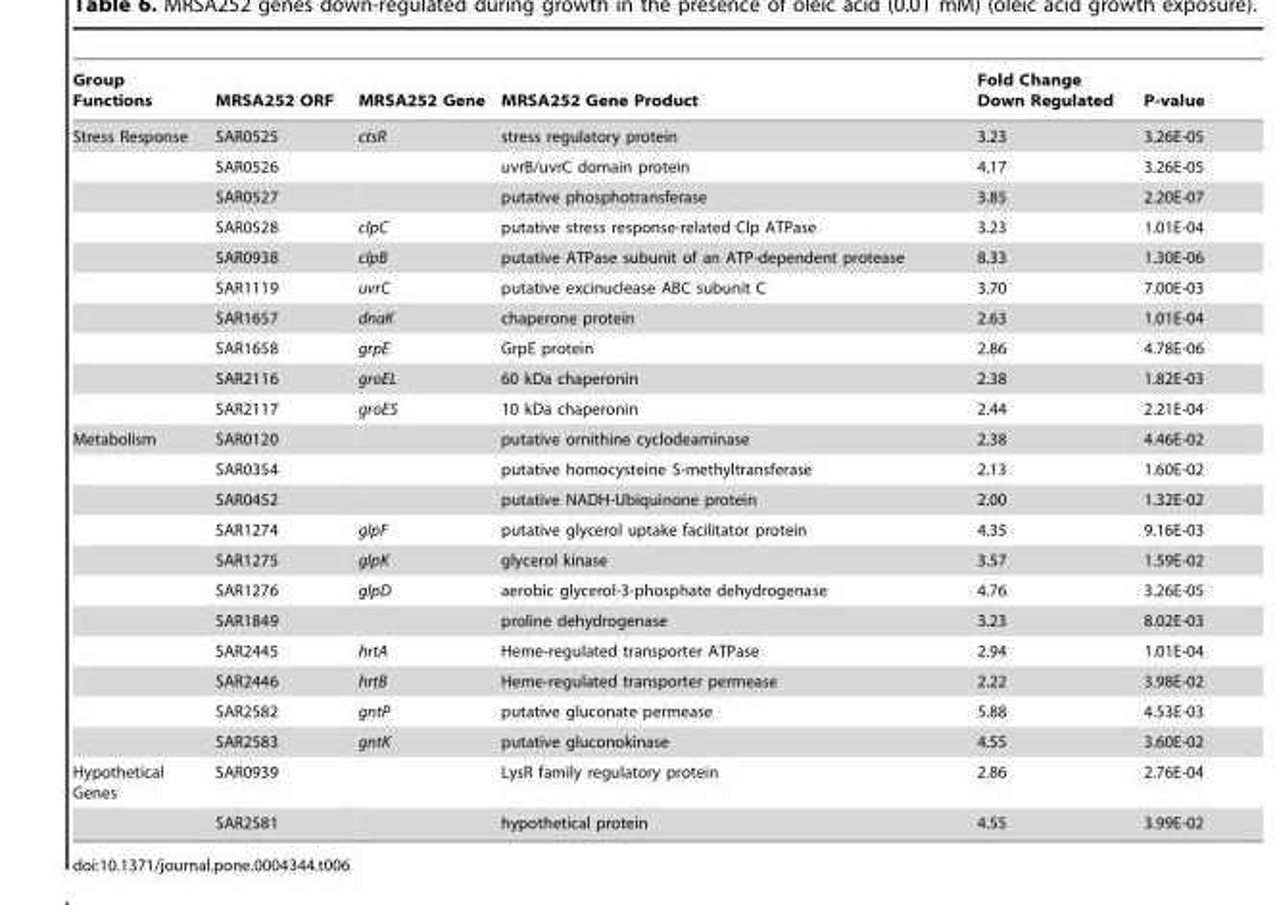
<table><thead><tr><td>Group Functions</td><td>MRSA252 ORF</td><td>MRSA252 Gene</td><td>MRSA252 Gene Product</td><td>Fold Change Down Regulated</td><td>P-value</td></tr></thead><tbody><tr><td rowspan="10">Stress Response</td><td>SAR0525</td><td>ctsR</td><td>stress regulatory protein</td><td>3.23</td><td>3.26E-05</td></tr><tr><td>SAR0526</td><td></td><td>uvrB/uvrC domain protein</td><td>4.17</td><td>3.26E-05</td></tr><tr><td>SAR0527</td><td></td><td>putative phosphotransferase</td><td>3.85</td><td>2.20E-07</td></tr><tr><td>SAR0528</td><td>clpC</td><td>putative stress response-related Clp ATPase</td><td>3.23</td><td>1.01E-04</td></tr><tr><td>SAR0938</td><td>clpB</td><td>putative ATPase subunit of an ATP-dependent protease</td><td>8.33</td><td>1.30E-06</td></tr><tr><td>SAR1119</td><td>uvrC</td><td>putative excinuclease ABC subunit C</td><td>3.70</td><td>7.00E-03</td></tr><tr><td>SAR1657</td><td>dnaK</td><td>chaperone protein</td><td>2.63</td><td>1.01E-04</td></tr><tr><td>SAR1658</td><td>grpE</td><td>GrpE protein</td><td>2.86</td><td>4.78E-06</td></tr><tr><td>SAR2116</td><td>groEL</td><td>60 kDa chaperonin</td><td>2.38</td><td>1.82E-03</td></tr><tr><td>SAR2117</td><td>groES</td><td>10 kDa chaperonin</td><td>2.44</td><td>2.21E-04</td></tr><tr><td rowspan="11">Metabolism</td><td>SAR0120</td><td></td><td>putative ornithine cyclodeaminase</td><td>2.38</td><td>4.46E-02</td></tr><tr><td>SAR0354</td><td></td><td>putative homocysteine S-methyltransferase</td><td>2.13</td><td>1.60E-02</td></tr><tr><td>SAR0452</td><td></td><td>putative NADH-Ubiquinone protein</td><td>2.00</td><td>1.32E-02</td></tr><tr><td>SAR1274</td><td>glpF</td><td>putative glycerol uptake facilitator protein</td><td>4.35</td><td>9.16E-03</td></tr><tr><td>SAR1275</td><td>glpK</td><td>glycerol kinase</td><td>3.57</td><td>1.59E-02</td></tr><tr><td>SAR1276</td><td>glpD</td><td>aerobic glycerol-3-phosphate dehydrogenase</td><td>4.76</td><td>3.26E-05</td></tr><tr><td>SAR1849</td><td></td><td>proline dehydrogenase</td><td>3.23</td><td>8.02E-03</td></tr><tr><td>SAR2445</td><td>hrtA</td><td>Heme-regulated transporter ATPase</td><td>2.94</td><td>1.01E-04</td></tr><tr><td>SAR2446</td><td>hrtB</td><td>Heme-regulated transporter permease</td><td>2.22</td><td>3.98E-02</td></tr><tr><td>SAR2582</td><td>gntP</td><td>putative gluconate permease</td><td>5.88</td><td>4.53E-03</td></tr><tr><td>SAR2583</td><td>gntK</td><td>putative gluconokinase</td><td>4.55</td><td>3.60E-02</td></tr><tr><td rowspan="2">Hypothetical Genes</td><td>SAR0939</td><td></td><td>LysR family regulatory protein</td><td>2.86</td><td>2.76E-04</td></tr><tr><td>SAR2581</td><td></td><td>hypothetical protein</td><td>4.55</td><td>3.99E-02</td></tr></tbody></table>